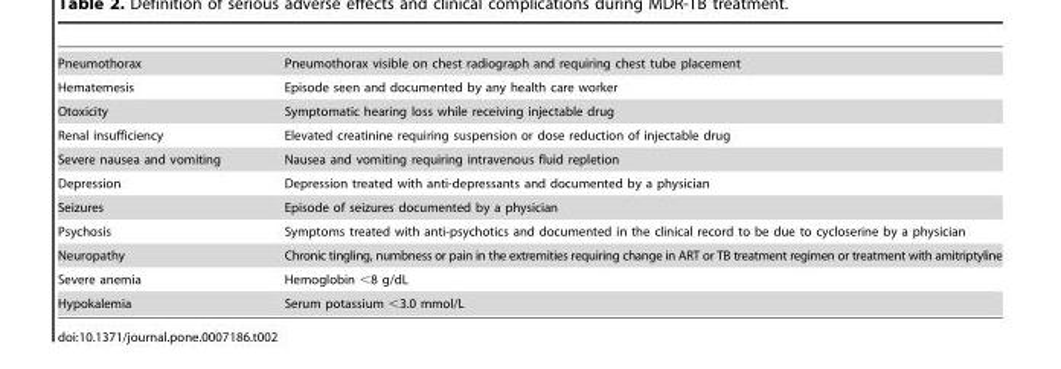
<table><tbody><tr><td>Pneumothorax</td><td>Pneumothorax visible on chest radiograph and requiring chest tube placement</td></tr><tr><td>Hematemesis</td><td>Episode seen and documented by any health care worker</td></tr><tr><td>Otoxicity</td><td>Symptomatic hearing loss while receiving injectable drug</td></tr><tr><td>Renal insufficiency</td><td>Elevated creatinine requiring suspension or dose reduction of injectable drug</td></tr><tr><td>Severe nausea and vomiting</td><td>Nausea and vomiting requiring intravenous fluid repletion</td></tr><tr><td>Depression</td><td>Depression treated with anti-depressants and documented by a physician</td></tr><tr><td>Seizures</td><td>Episode of seizures documented by a physician</td></tr><tr><td>Psychosis</td><td>Symptoms treated with anti-psychotics and documented in the clinical record to be due to cycloserine by a physician</td></tr><tr><td>Neuropathy</td><td>Chronic tingling, numbness or pain in the extremities requiring change in ART or TB treatment regimen or treatment with amitriptyline</td></tr><tr><td>Severe anemia</td><td>Hemoglobin &lt;8 g/dL</td></tr><tr><td>Hypokalemia</td><td>Serum potassium &lt;3.0 mmol/L</td></tr></tbody></table>